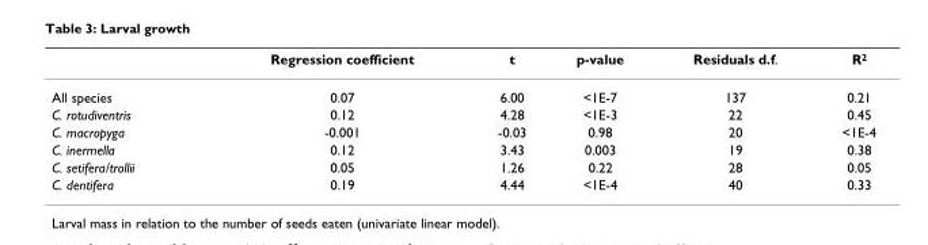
<table><thead><tr><td></td><td>Regression coefficient</td><td>t</td><td>p-value</td><td>Residuals d.f.</td><td>R<sup>2</sup></td></tr></thead><tbody><tr><td>All species</td><td>0.07</td><td>6.00</td><td>&lt;1E-7</td><td>137</td><td>0.21</td></tr><tr><td>C. rotudiventris</td><td>0.12</td><td>4.28</td><td>&lt;1E-3</td><td>22</td><td>0.45</td></tr><tr><td>C. macropyga</td><td>-0.001</td><td>-0.03</td><td>0.98</td><td>20</td><td>&lt;1E-4</td></tr><tr><td>C. inermella</td><td>0.12</td><td>3.43</td><td>0.003</td><td>19</td><td>0.38</td></tr><tr><td>C. setifera/trollii</td><td>0.05</td><td>1.26</td><td>0.22</td><td>28</td><td>0.05</td></tr><tr><td>C. dentifera</td><td>0.19</td><td>4.44</td><td>&lt;1E-4</td><td>40</td><td>0.33</td></tr></tbody></table>